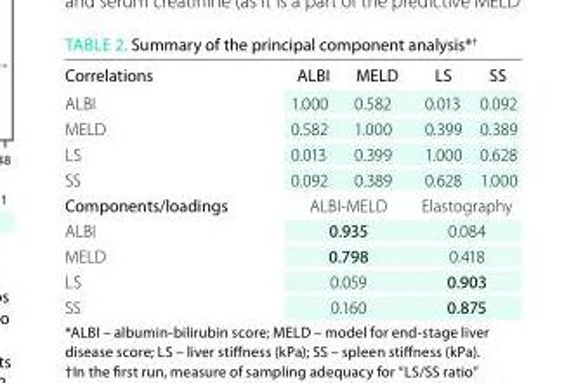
<table><thead><tr><td>Correlations</td><td>aLBI</td><td>MeLd</td><td>LS</td><td>SS</td></tr></thead><tbody><tr><td>ALBI</td><td>1.000</td><td>0.582</td><td>0.013</td><td>0.092</td></tr><tr><td>MELD</td><td>0.582</td><td>1.000</td><td>0.399</td><td>0.389</td></tr><tr><td>LS</td><td>0.013</td><td>0.399</td><td>1.000</td><td>0.628</td></tr><tr><td>SS</td><td>0.092</td><td>0.389</td><td>0.628</td><td>1.000</td></tr><tr><td>Components/loadings</td><td colspan="2">ALBI-MELD</td><td colspan="2">Elastography</td></tr><tr><td>ALBI</td><td colspan="2">0.935</td><td colspan="2">0.084</td></tr><tr><td>MELD</td><td colspan="2">0.798</td><td colspan="2">0.418</td></tr><tr><td>LS</td><td colspan="2">0.059</td><td colspan="2">0.903</td></tr><tr><td>SS</td><td colspan="2">0.160</td><td colspan="2">0.875</td></tr></tbody></table>